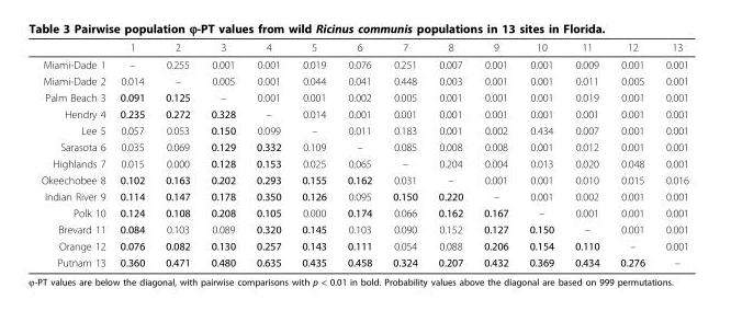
<table><thead><tr><td></td><td>1</td><td>2</td><td>3</td><td>4</td><td>5</td><td>6</td><td>7</td><td>8</td><td>9</td><td>10</td><td>11</td><td>12</td><td>13</td></tr></thead><tbody><tr><td>Miami-Dade 1</td><td>–</td><td>0.255</td><td>0.001</td><td>0.001</td><td>0.019</td><td>0.076</td><td>0.251</td><td>0.007</td><td>0.001</td><td>0.001</td><td>0.009</td><td>0.001</td><td>0.001</td></tr><tr><td>Miami-Dade 2</td><td>0.014</td><td>–</td><td>0.005</td><td>0.001</td><td>0.044</td><td>0.041</td><td>0.448</td><td>0.003</td><td>0.001</td><td>0.001</td><td>0.011</td><td>0.005</td><td>0.001</td></tr><tr><td>Palm Beach 3</td><td>0.091</td><td>0.125</td><td>–</td><td>0.001</td><td>0.001</td><td>0.002</td><td>0.005</td><td>0.001</td><td>0.001</td><td>0.001</td><td>0.019</td><td>0.001</td><td>0.001</td></tr><tr><td>Hendry 4</td><td>0.235</td><td>0.272</td><td>0.328</td><td>–</td><td>0.014</td><td>0.001</td><td>0.001</td><td>0.001</td><td>0.001</td><td>0.001</td><td>0.001</td><td>0.001</td><td>0.001</td></tr><tr><td>Lee 5</td><td>0.057</td><td>0.053</td><td>0.150</td><td>0.099</td><td>–</td><td>0.011</td><td>0.183</td><td>0.001</td><td>0.002</td><td>0.434</td><td>0.007</td><td>0.001</td><td>0.001</td></tr><tr><td>Sarasota 6</td><td>0.035</td><td>0.069</td><td>0.129</td><td>0.332</td><td>0.109</td><td>–</td><td>0.085</td><td>0.008</td><td>0.008</td><td>0.001</td><td>0.012</td><td>0.001</td><td>0.001</td></tr><tr><td>Highlands 7</td><td>0.015</td><td>0.000</td><td>0.128</td><td>0.153</td><td>0.025</td><td>0.065</td><td>–</td><td>0.204</td><td>0.004</td><td>0.013</td><td>0.020</td><td>0.048</td><td>0.001</td></tr><tr><td>Okeechobee 8</td><td>0.102</td><td>0.163</td><td>0.202</td><td>0.293</td><td>0.155</td><td>0.162</td><td>0.031</td><td>–</td><td>0.001</td><td>0.001</td><td>0.010</td><td>0.015</td><td>0.016</td></tr><tr><td>Indian River 9</td><td>0.114</td><td>0.147</td><td>0.178</td><td>0.350</td><td>0.126</td><td>0.095</td><td>0.150</td><td>0.220</td><td>–</td><td>0.001</td><td>0.002</td><td>0.001</td><td>0.001</td></tr><tr><td>Polk 10</td><td>0.124</td><td>0.108</td><td>0.208</td><td>0.105</td><td>0.000</td><td>0.174</td><td>0.066</td><td>0.162</td><td>0.167</td><td>–</td><td>0.001</td><td>0.001</td><td>0.001</td></tr><tr><td>Brevard 11</td><td>0.084</td><td>0.103</td><td>0.089</td><td>0.320</td><td>0.145</td><td>0.103</td><td>0.090</td><td>0.152</td><td>0.127</td><td>0.150</td><td>–</td><td>0.001</td><td>0.001</td></tr><tr><td>Orange 12</td><td>0.076</td><td>0.082</td><td>0.130</td><td>0.257</td><td>0.143</td><td>0.111</td><td>0.054</td><td>0.088</td><td>0.206</td><td>0.154</td><td>0.110</td><td>–</td><td>0.001</td></tr><tr><td>Putnam 13</td><td>0.360</td><td>0.471</td><td>0.480</td><td>0.635</td><td>0.435</td><td>0.458</td><td>0.324</td><td>0.207</td><td>0.432</td><td>0.369</td><td>0.434</td><td>0.276</td><td>–</td></tr></tbody></table>